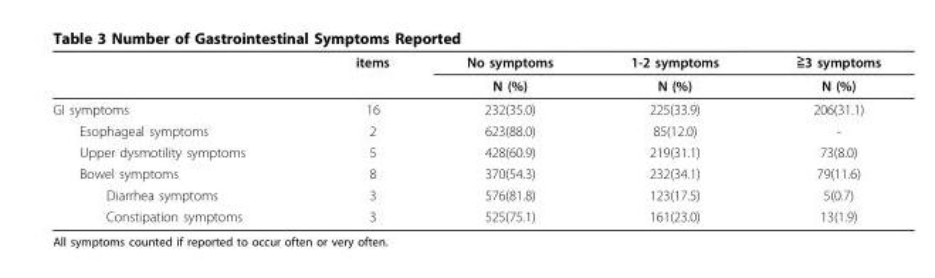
<table><thead><tr><td></td><td>items</td><td>No symptoms</td><td>1-2 symptoms</td><td>≧3 symptoms</td></tr></thead><tbody><tr><td></td><td></td><td>N (%)</td><td>N (%)</td><td>N (%)</td></tr><tr><td>GI symptoms</td><td>16</td><td>232(35.0)</td><td>225(33.9)</td><td>206(31.1)</td></tr><tr><td>Esophageal symptoms</td><td>2</td><td>623(88.0)</td><td>85(12.0)</td><td>-</td></tr><tr><td>Upper dysmotility symptoms</td><td>5</td><td>428(60.9)</td><td>219(31.1)</td><td>73(8.0)</td></tr><tr><td>Bowel symptoms</td><td>8</td><td>370(54.3)</td><td>232(34.1)</td><td>79(11.6)</td></tr><tr><td>Diarrhea symptoms</td><td>3</td><td>576(81.8)</td><td>123(17.5)</td><td>5(0.7)</td></tr><tr><td>Constipation symptoms</td><td>3</td><td>525(75.1)</td><td>161(23.0)</td><td>13(1.9)</td></tr></tbody></table>